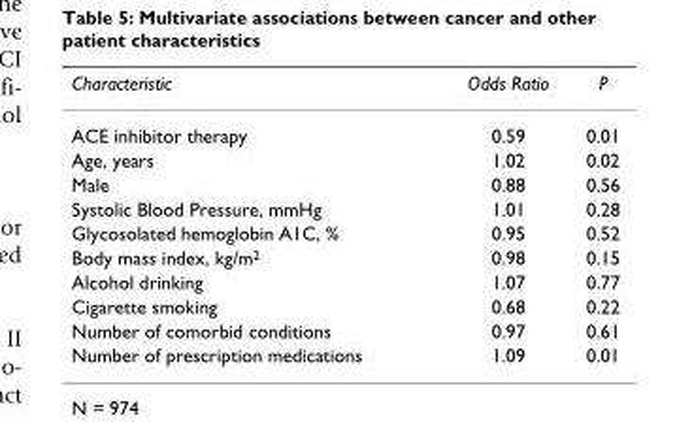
<table><thead><tr><td>Characteristic</td><td>Odds Ratio</td><td>P</td></tr></thead><tbody><tr><td>ACE inhibitor therapy</td><td>0.59</td><td>0.01</td></tr><tr><td>Age, years</td><td>1.02</td><td>0.02</td></tr><tr><td>Male</td><td>0.88</td><td>0.56</td></tr><tr><td>Systolic Blood Pressure, mmHg</td><td>1.01</td><td>0.28</td></tr><tr><td>Glycosolated hemoglobin A1C, %</td><td>0.95</td><td>0.52</td></tr><tr><td>Body mass index, kg/m<sup>2</sup></td><td>0.98</td><td>0.15</td></tr><tr><td>Alcohol drinking</td><td>1.07</td><td>0.77</td></tr><tr><td>Cigarette smoking</td><td>0.68</td><td>0.22</td></tr><tr><td>Number of comorbid conditions</td><td>0.97</td><td>0.61</td></tr><tr><td>Number of prescription medications</td><td>1.09</td><td>0.01</td></tr></tbody></table>